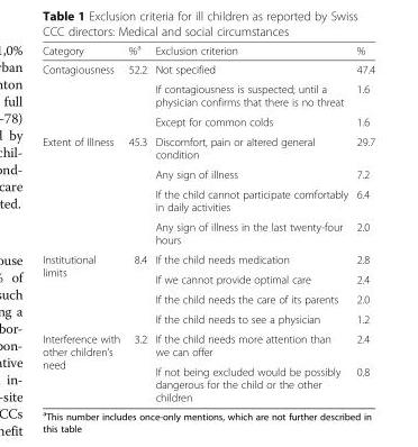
<table><thead><tr><td>Category</td><td>%<sup>a</sup></td><td>Exclusion criterion</td><td>%</td></tr></thead><tbody><tr><td rowspan="3">Contagiousness</td><td rowspan="3">52.2</td><td>Not specified</td><td>47.4</td></tr><tr><td>If contagiousness is suspected; until a physician confirms that there is no threat</td><td>1.6</td></tr><tr><td>Except for common colds</td><td>1.6</td></tr><tr><td rowspan="4">Extent of Illness</td><td rowspan="4">45.3</td><td>Discomfort, pain or altered general condition</td><td>29.7</td></tr><tr><td>Any sign of illness</td><td>7.2</td></tr><tr><td>If the child cannot participate comfortably in daily activities</td><td>6.4</td></tr><tr><td>Any sign of illness in the last twenty-four hours</td><td>2.0</td></tr><tr><td rowspan="4">Institutional limits</td><td rowspan="4">8.4</td><td>If the child needs medication</td><td>2.8</td></tr><tr><td>If we cannot provide optimal care</td><td>2.4</td></tr><tr><td>If the child needs the care of its parents</td><td>2.0</td></tr><tr><td>If the child needs to see a physician</td><td>1.2</td></tr><tr><td rowspan="2">Interference with other children’s need</td><td rowspan="2">3.2</td><td>If the child needs more attention than we can offer</td><td>2.4</td></tr><tr><td>If not being excluded would be possibly dangerous for the child or the other children</td><td>0.8</td></tr></tbody></table>